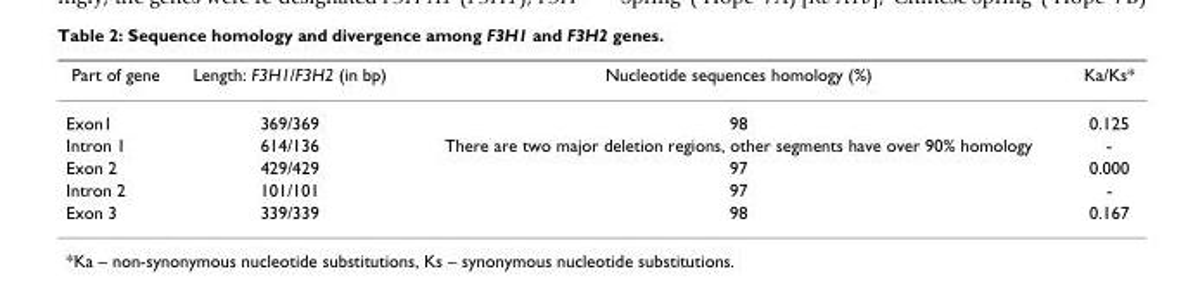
<table><thead><tr><td>Part of gene</td><td>Length: F3H1/F3H2 (in bp)</td><td>Nucleotide sequences homology (%)</td><td>Ka/Ks*</td></tr></thead><tbody><tr><td>Exon1</td><td>369/369</td><td>98</td><td>0.125</td></tr><tr><td>Intron 1</td><td>614/136</td><td>There are two major deletion regions, other segments have over 90% homology</td><td>-</td></tr><tr><td>Exon 2</td><td>429/429</td><td>97</td><td>0.000</td></tr><tr><td>Intron 2</td><td>101/101</td><td>97</td><td>-</td></tr><tr><td>Exon 3</td><td>339/339</td><td>98</td><td>0.167</td></tr></tbody></table>